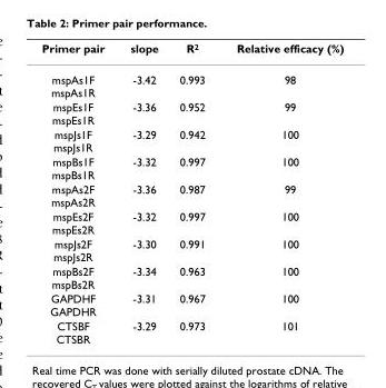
<table><thead><tr><td>Primer pair</td><td>slope</td><td>R<sup>2</sup></td><td>Relative efficacy (%)</td></tr></thead><tbody><tr><td>mspAs1F mspAs1R</td><td>-3.42</td><td>0.993</td><td>98</td></tr><tr><td>mspEs1F mspEs1R</td><td>-3.36</td><td>0.952</td><td>99</td></tr><tr><td>mspJs1F mspJs1R</td><td>-3.29</td><td>0.942</td><td>100</td></tr><tr><td>mspBs1F mspBs1R</td><td>-3.32</td><td>0.997</td><td>100</td></tr><tr><td>mspAs2F mspAs2R</td><td>-3.36</td><td>0.987</td><td>99</td></tr><tr><td>mspEs2F mspEs2R</td><td>-3.32</td><td>0.997</td><td>100</td></tr><tr><td>mspJs2F mspJs2R</td><td>-3.30</td><td>0.991</td><td>100</td></tr><tr><td>mspBs2F mspBs2R</td><td>-3.34</td><td>0.963</td><td>100</td></tr><tr><td>GAPDHF GAPDHR</td><td>-3.31</td><td>0.967</td><td>100</td></tr><tr><td>CTSBF CTSBR</td><td>-3.29</td><td>0.973</td><td>101</td></tr></tbody></table>